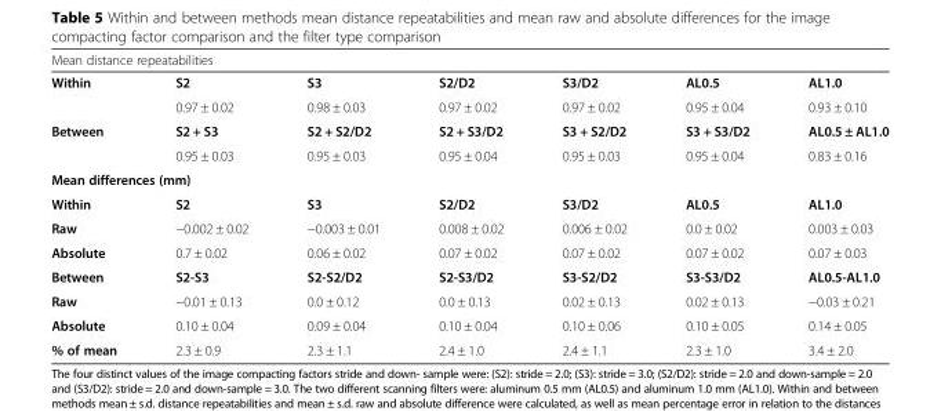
<table><thead><tr><td colspan="7">Mean distance repeatabilities</td></tr><tr><td>Within</td><td>S2</td><td>S3</td><td>S2/D2</td><td>S3/D2</td><td>AL0.5</td><td>AL1.0</td></tr></thead><tbody><tr><td></td><td>0.97 ± 0.02</td><td>0.98 ± 0.03</td><td>0.97 ± 0.02</td><td>0.97 ± 0.02</td><td>0.95 ± 0.04</td><td>0.93 ± 0.10</td></tr><tr><td rowspan="2">Between</td><td>S2 + S3</td><td>S2 + S2/D2</td><td>S2 + S3/D2</td><td>S3 + S2/D2</td><td>S3 + S3/D2</td><td>AL0.5 ± AL1.0</td></tr><tr><td>0.95 ± 0.03</td><td>0.95 ± 0.03</td><td>0.95 ± 0.04</td><td>0.95 ± 0.03</td><td>0.95 ± 0.04</td><td>0.83 ± 0.16</td></tr><tr><td colspan="7">Mean differences (mm)</td></tr><tr><td>Within</td><td>S2</td><td>S3</td><td>S2/D2</td><td>S3/D2</td><td>AL0.5</td><td>AL1.0</td></tr><tr><td>Raw</td><td>−0.002 ± 0.02</td><td>−0.003 ± 0.01</td><td>0.008 ± 0.02</td><td>0.006 ± 0.02</td><td>0.0 ± 0.02</td><td>0.003 ± 0.03</td></tr><tr><td>Absolute</td><td>0.7 ± 0.02</td><td>0.06 ± 0.02</td><td>0.07 ± 0.02</td><td>0.07 ± 0.02</td><td>0.07 ± 0.02</td><td>0.07 ± 0.03</td></tr><tr><td>Between</td><td>S2-S3</td><td>S2-S2/D2</td><td>S2-S3/D2</td><td>S3-S2/D2</td><td>S3-S3/D2</td><td>AL0.5-AL1.0</td></tr><tr><td>Raw</td><td>−0.01 ± 0.13</td><td>0.0 ± 0.12</td><td>0.0 ± 0.13</td><td>0.02 ± 0.13</td><td>0.02 ± 0.13</td><td>−0.03 ± 0.21</td></tr><tr><td>Absolute</td><td>0.10 ± 0.04</td><td>0.09 ± 0.04</td><td>0.10 ± 0.04</td><td>0.10 ± 0.06</td><td>0.10 ± 0.05</td><td>0.14 ± 0.05</td></tr><tr><td>% of mean</td><td>2.3 ± 0.9</td><td>2.3 ± 1.1</td><td>2.4 ± 1.0</td><td>2.4 ± 1.1</td><td>2.3 ± 1.0</td><td>3.4 ± 2.0</td></tr></tbody></table>